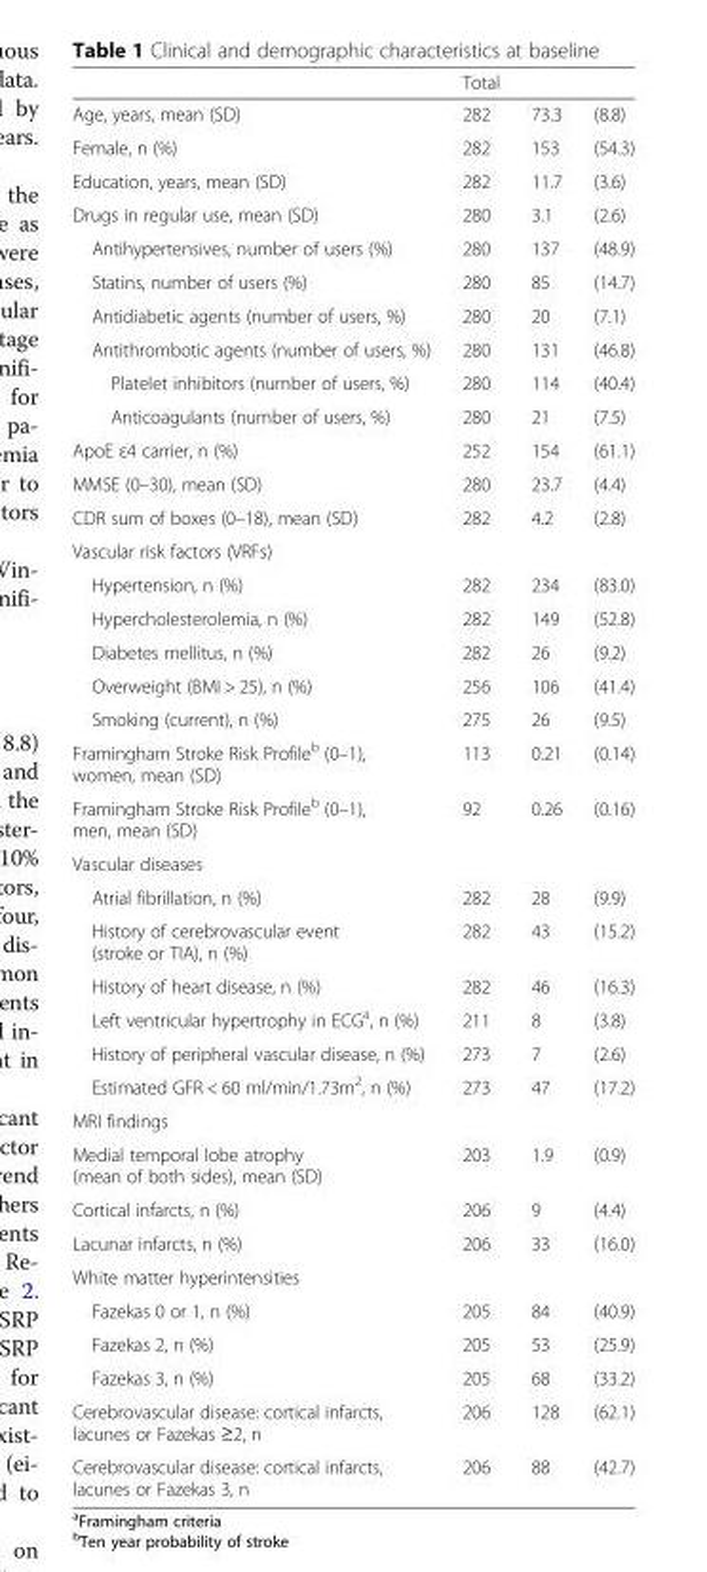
<table><thead><tr><td></td><td>Total</td><td></td><td></td></tr></thead><tbody><tr><td>Age, years, mean (SD)</td><td>282</td><td>73.3</td><td>(8.8)</td></tr><tr><td>Female, n (%)</td><td>282</td><td>153</td><td>(54.3)</td></tr><tr><td>Education, years, mean (SD)</td><td>282</td><td>11.7</td><td>(3.6)</td></tr><tr><td>Drugs in regular use, mean (SD)</td><td>280</td><td>3.1</td><td>(2.6)</td></tr><tr><td>Antihypertensives, number of users (%)</td><td>280</td><td>137</td><td>(48.9)</td></tr><tr><td>Statins, number of users (%)</td><td>280</td><td>85</td><td>(14.7)</td></tr><tr><td>Antidiabetic agents (number of users, %)</td><td>280</td><td>20</td><td>(7.1)</td></tr><tr><td>Antithrombotic agents (number of users, %)</td><td>280</td><td>131</td><td>(46.8)</td></tr><tr><td>Platelet inhibitors (number of users, %)</td><td>280</td><td>114</td><td>(40.4)</td></tr><tr><td>Anticoagulants (number of users, %)</td><td>280</td><td>21</td><td>(7.5)</td></tr><tr><td>ApoE ε4 carrier, n (%)</td><td>252</td><td>154</td><td>(61.1)</td></tr><tr><td>MMSE (0–30), mean (SD)</td><td>280</td><td>23.7</td><td>(4.4)</td></tr><tr><td>CDR sum of boxes (0–18), mean (SD)</td><td>282</td><td>4.2</td><td>(2.8)</td></tr><tr><td colspan="4">Vascular risk factors (VRFs)</td></tr><tr><td>Hypertension, n (%)</td><td>282</td><td>234</td><td>(83.0)</td></tr><tr><td>Hypercholesterolemia, n (%)</td><td>282</td><td>149</td><td>(52.8)</td></tr><tr><td>Diabetes mellitus, n (%)</td><td>282</td><td>26</td><td>(9.2)</td></tr><tr><td>Overweight (BMI &gt; 25), n (%)</td><td>256</td><td>106</td><td>(41.4)</td></tr><tr><td>Smoking (current), n (%)</td><td>275</td><td>26</td><td>(9.5)</td></tr><tr><td>Framingham Stroke Risk Profile<sup>b</sup> (0–1), women, mean (SD)</td><td>113</td><td>0.21</td><td>(0.14)</td></tr><tr><td>Framingham Stroke Risk Profile<sup>b</sup> (0–1), men, mean (SD)</td><td>92</td><td>0.26</td><td>(0.16)</td></tr><tr><td colspan="4">Vascular diseases</td></tr><tr><td>Atrial fibrillation, n (%)</td><td>282</td><td>28</td><td>(9.9)</td></tr><tr><td>History of cerebrovascular event (stroke or TIA), n (%)</td><td>282</td><td>43</td><td>(15.2)</td></tr><tr><td>History of heart disease, n (%)</td><td>282</td><td>46</td><td>(16.3)</td></tr><tr><td>Left ventricular hypertrophy in ECG<sup>a</sup>, n (%)</td><td>211</td><td>8</td><td>(3.8)</td></tr><tr><td>History of peripheral vascular disease, n (%)</td><td>273</td><td>7</td><td>(2.6)</td></tr><tr><td>Estimated GFR &lt; 60 ml/min/1.73m<sup>2</sup>, n (%)</td><td>273</td><td>47</td><td>(17.2)</td></tr><tr><td colspan="4">MRI findings</td></tr><tr><td>Medial temporal lobe atrophy (mean of both sides), mean (SD)</td><td>203</td><td>1.9</td><td>(0.9)</td></tr><tr><td>Cortical infarcts, n (%)</td><td>206</td><td>9</td><td>(4.4)</td></tr><tr><td>Lacunar infarcts, n (%)</td><td>206</td><td>33</td><td>(16.0)</td></tr><tr><td colspan="4">White matter hyperintensities</td></tr><tr><td>Fazekas 0 or 1, n (%)</td><td>205</td><td>84</td><td>(40.9)</td></tr><tr><td>Fazekas 2, n (%)</td><td>205</td><td>53</td><td>(25.9)</td></tr><tr><td>Fazekas 3, n (%)</td><td>205</td><td>68</td><td>(33.2)</td></tr><tr><td>Cerebrovascular disease: cortical infarcts, lacunes or Fazekas ≥2, n</td><td>206</td><td>128</td><td>(62.1)</td></tr><tr><td>Cerebrovascular disease: cortical infarcts, lacunes or Fazekas 3, n</td><td>206</td><td>88</td><td>(42.7)</td></tr></tbody></table>